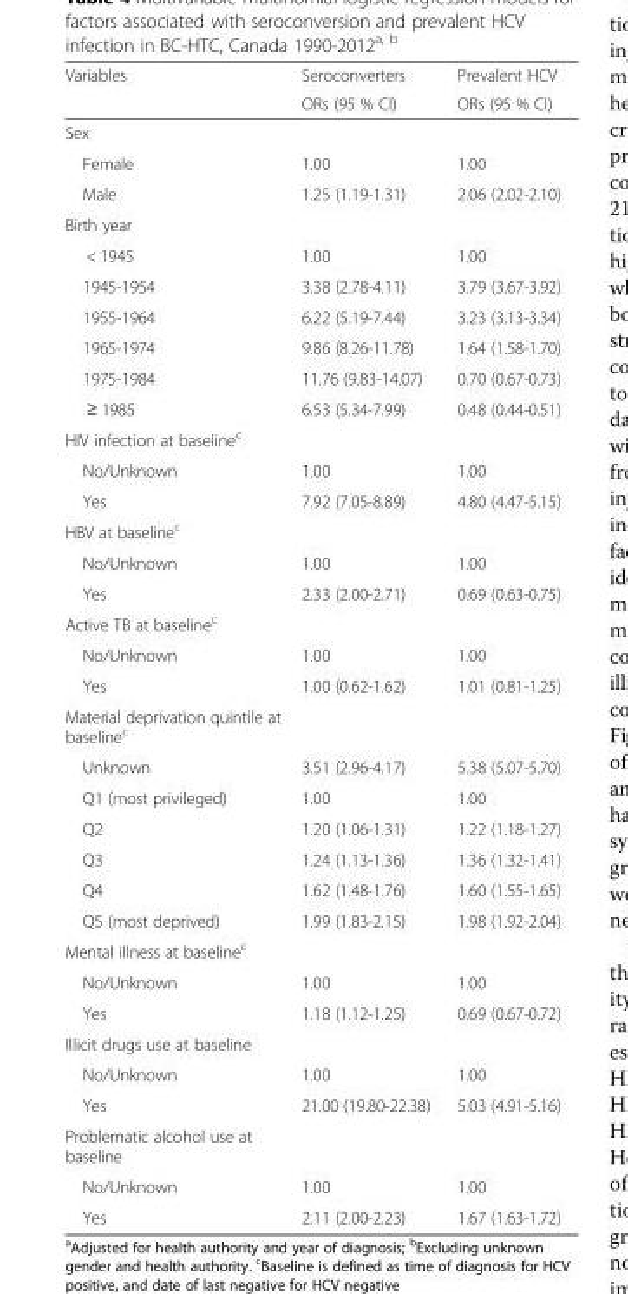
<table><thead><tr><td rowspan="2">Variables</td><td rowspan="2">Seroconverters ORs (95 % CI)</td><td rowspan="2">Prevalent HCV ORs (95 % CI)</td></tr><tr></tr></thead><tbody><tr><td colspan="3">Sex</td></tr><tr><td>Female</td><td>1.00</td><td>1.00</td></tr><tr><td>Male</td><td>1.25 (1.19-1.31)</td><td>2.06 (2.02-2.10)</td></tr><tr><td colspan="3">Birth year</td></tr><tr><td>&lt; 1945</td><td>1.00</td><td>1.00</td></tr><tr><td>1945-1954</td><td>3.38 (2.78-4.11)</td><td>3.79 (3.67-3.92)</td></tr><tr><td>1955-1964</td><td>6.22 (5.19-7.44)</td><td>3.23 (3.13-3.34)</td></tr><tr><td>1965-1974</td><td>9.86 (8.26-11.78)</td><td>1.64 (1.58-1.70)</td></tr><tr><td>1975-1984</td><td>11.76 (9.83-14.07)</td><td>0.70 (0.67-0.73)</td></tr><tr><td>≥ 1985</td><td>6.53 (5.34-7.99)</td><td>0.48 (0.44-0.51)</td></tr><tr><td colspan="3">HIV infection at baseline<sup>c</sup></td></tr><tr><td>No/Unknown</td><td>1.00</td><td>1.00</td></tr><tr><td>Yes</td><td>7.92 (7.05-8.89)</td><td>4.80 (4.47-5.15)</td></tr><tr><td colspan="3">HBV at baseline<sup>c</sup></td></tr><tr><td>No/Unknown</td><td>1.00</td><td>1.00</td></tr><tr><td>Yes</td><td>2.33 (2.00-2.71)</td><td>0.69 (0.63-0.75)</td></tr><tr><td colspan="3">Active TB at baseline<sup>c</sup></td></tr><tr><td>No/Unknown</td><td>1.00</td><td>1.00</td></tr><tr><td>Yes</td><td>1.00 (0.62-1.62)</td><td>1.01 (0.81-1.25)</td></tr><tr><td colspan="3">Material deprivation quintile at baseline<sup>c</sup></td></tr><tr><td>Unknown</td><td>3.51 (2.96-4.17)</td><td>5.38 (5.07-5.70)</td></tr><tr><td>Q1 (most privileged)</td><td>1.00</td><td>1.00</td></tr><tr><td>Q2</td><td>1.20 (1.06-1.31)</td><td>1.22 (1.18-1.27)</td></tr><tr><td>Q3</td><td>1.24 (1.13-1.36)</td><td>1.36 (1.32-1.41)</td></tr><tr><td>Q4</td><td>1.62 (1.48-1.76)</td><td>1.60 (1.55-1.65)</td></tr><tr><td>Q5 (most deprived)</td><td>1.99 (1.83-2.15)</td><td>1.98 (1.92-2.04)</td></tr><tr><td colspan="3">Mental illness at baseline<sup>c</sup></td></tr><tr><td>No/Unknown</td><td>1.00</td><td>1.00</td></tr><tr><td>Yes</td><td>1.18 (1.12-1.25)</td><td>0.69 (0.67-0.72)</td></tr><tr><td colspan="3">Illicit drugs use at baseline</td></tr><tr><td>No/Unknown</td><td>1.00</td><td>1.00</td></tr><tr><td>Yes</td><td>21.00 (19.80-22.38)</td><td>5.03 (4.91-5.16)</td></tr><tr><td colspan="3">Problematic alcohol use at baseline</td></tr><tr><td>No/Unknown</td><td>1.00</td><td>1.00</td></tr><tr><td>Yes</td><td>2.11 (2.00-2.23)</td><td>1.67 (1.63-1.72)</td></tr></tbody></table>